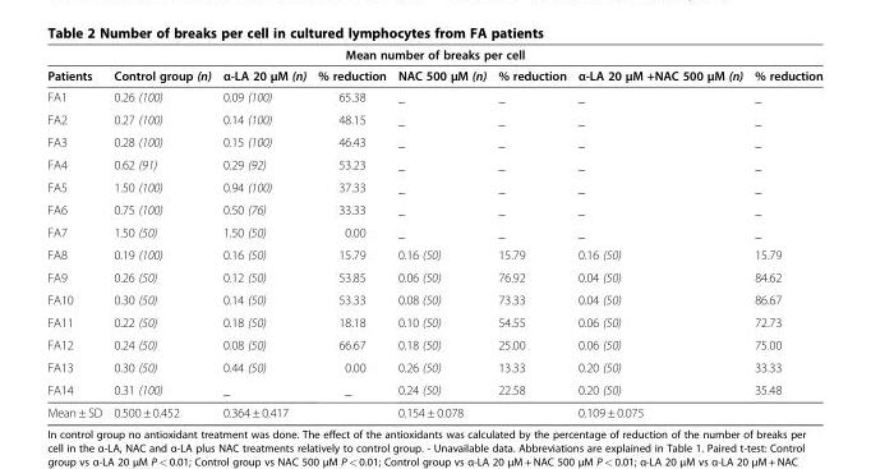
<table><thead><tr><td colspan="8">Mean number of breaks per cell</td></tr><tr><td>Patients</td><td>Control group (n)</td><td>α-LA 20 μM (n)</td><td>% reduction</td><td>NAC 500 μM (n)</td><td>% reduction</td><td>α-LA 20 μM +NAC 500 μM (n)</td><td>% reduction</td></tr></thead><tbody><tr><td>FA1</td><td>0.26 (100)</td><td>0.09 (100)</td><td>65.38</td><td>_</td><td>_</td><td>_</td><td>_</td></tr><tr><td>FA2</td><td>0.27 (100)</td><td>0.14 (100)</td><td>48.15</td><td>_</td><td>_</td><td>_</td><td>_</td></tr><tr><td>FA3</td><td>0.28 (100)</td><td>0.15 (100)</td><td>46.43</td><td>_</td><td>_</td><td>_</td><td>_</td></tr><tr><td>FA4</td><td>0.62 (91)</td><td>0.29 (92)</td><td>53.23</td><td>_</td><td>_</td><td>_</td><td>_</td></tr><tr><td>FA5</td><td>1.50 (100)</td><td>0.94 (100)</td><td>37.33</td><td>_</td><td>_</td><td>_</td><td>_</td></tr><tr><td>FA6</td><td>0.75 (100)</td><td>0.50 (76)</td><td>33.33</td><td>_</td><td>_</td><td>_</td><td>_</td></tr><tr><td>FA7</td><td>1.50 (50)</td><td>1.50 (50)</td><td>0.00</td><td>_</td><td>_</td><td>_</td><td>_</td></tr><tr><td>FA8</td><td>0.19 (100)</td><td>0.16 (50)</td><td>15.79</td><td>0.16 (50)</td><td>15.79</td><td>0.16 (50)</td><td>15.79</td></tr><tr><td>FA9</td><td>0.26 (50)</td><td>0.12 (50)</td><td>53.85</td><td>0.06 (50)</td><td>76.92</td><td>0.04 (50)</td><td>84.62</td></tr><tr><td>FA10</td><td>0.30 (50)</td><td>0.14 (50)</td><td>53.33</td><td>0.08 (50)</td><td>73.33</td><td>0.04 (50)</td><td>86.67</td></tr><tr><td>FA11</td><td>0.22 (50)</td><td>0.18 (50)</td><td>18.18</td><td>0.10 (50)</td><td>54.55</td><td>0.06 (50)</td><td>72.73</td></tr><tr><td>FA12</td><td>0.24 (50)</td><td>0.08 (50)</td><td>66.67</td><td>0.18 (50)</td><td>25.00</td><td>0.06 (50)</td><td>75.00</td></tr><tr><td>FA13</td><td>0.30 (50)</td><td>0.44 (50)</td><td>0.00</td><td>0.26 (50)</td><td>13.33</td><td>0.20 (50)</td><td>33.33</td></tr><tr><td>FA14</td><td>0.31 (100)</td><td>_</td><td>_</td><td>0.24 (50)</td><td>22.58</td><td>0.20 (50)</td><td>35.48</td></tr><tr><td>Mean ± SD</td><td>0.500 ± 0.452</td><td>0.364 ± 0.417</td><td></td><td>0.154 ± 0.078</td><td></td><td>0.109 ± 0.075</td><td></td></tr></tbody></table>